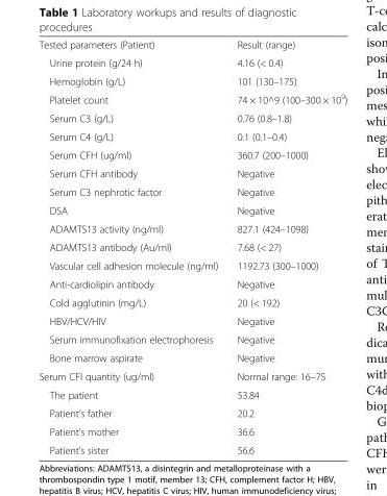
<table><tbody><tr><td>Tested parameters (Patient)</td><td>Result (range)</td></tr><tr><td>Urine protein (g/24 h)</td><td>4.16 (&lt; 0.4)</td></tr><tr><td>Hemoglobin (g/L)</td><td>101 (130–175)</td></tr><tr><td>Platelet count</td><td>74 × 10^9 (100–300 × 10<sup>9</sup>)</td></tr><tr><td>Serum C3 (g/L)</td><td>0.76 (0.8–1.8)</td></tr><tr><td>Serum C4 (g/L)</td><td>0.1 (0.1–0.4)</td></tr><tr><td>Serum CFH (ug/ml)</td><td>360.7 (200–1000)</td></tr><tr><td>Serum CFH antibody</td><td>Negative</td></tr><tr><td>Serum C3 nephrotic factor</td><td>Negative</td></tr><tr><td>DSA</td><td>Negative</td></tr><tr><td>ADAMTS13 activity (ng/ml)</td><td>827.1 (424–1098)</td></tr><tr><td>ADAMTS13 antibody (Au/ml)</td><td>7.68 (&lt; 27)</td></tr><tr><td>Vascular cell adhesion molecule (ng/ml)</td><td>1192.73 (300–1000)</td></tr><tr><td>Anti-cardiolipin antibody</td><td>Negative</td></tr><tr><td>Cold agglutinin (mg/L)</td><td>20 (&lt; 192)</td></tr><tr><td>HBV/HCV/HIV</td><td>Negative</td></tr><tr><td>Serum immunofixation electrophoresis</td><td>Negative</td></tr><tr><td>Bone marrow aspirate</td><td>Negative</td></tr><tr><td>Serum CFI quantity (ug/ml)</td><td>Normal range: 16–75</td></tr><tr><td>The patient</td><td>53.84</td></tr><tr><td>Patient’s father</td><td>20.2</td></tr><tr><td>Patient’s mother</td><td>36.6</td></tr><tr><td>Patient’s sister</td><td>56.6</td></tr></tbody></table>